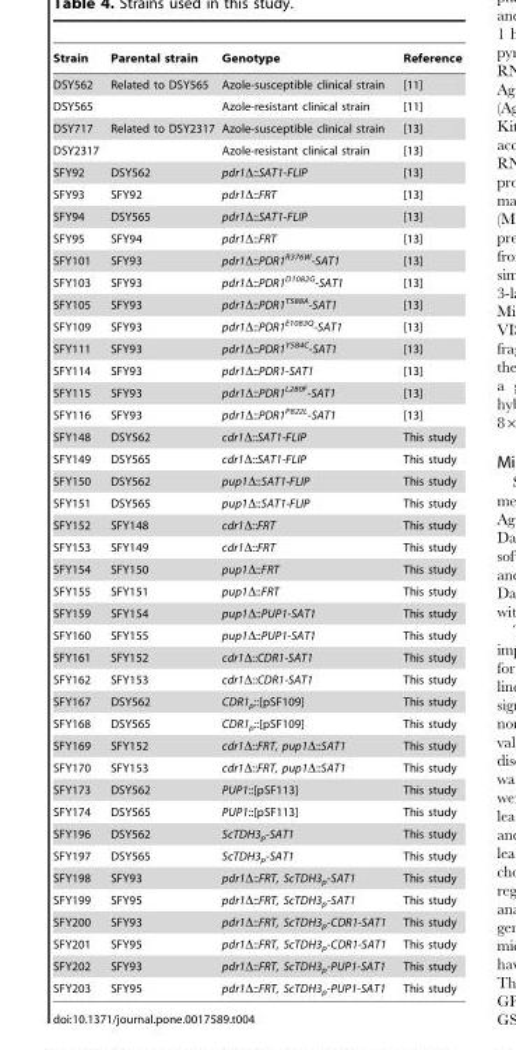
<table><thead><tr><td>Strain</td><td>Parental strain</td><td>Genotype</td><td>Reference</td></tr></thead><tbody><tr><td>DSY562</td><td>Related to DSY565</td><td>Azole-susceptible clinical strain</td><td>[11]</td></tr><tr><td>DSY565</td><td></td><td>Azole-resistant clinical strain</td><td>[11]</td></tr><tr><td>DSY717</td><td>Related to DSY2317</td><td>Azole-susceptible clinical strain</td><td>[13]</td></tr><tr><td>DSY2317</td><td></td><td>Azole-resistant clinical strain</td><td>[13]</td></tr><tr><td>SFY92</td><td>DSY562</td><td>pdr1Δ::SAT1-FLIP</td><td>[13]</td></tr><tr><td>SFY93</td><td>SFY92</td><td>pdr1Δ::FRT</td><td>[13]</td></tr><tr><td>SFY94</td><td>DSY565</td><td>pdr1Δ::SAT1-FLIP</td><td>[13]</td></tr><tr><td>SFY95</td><td>SFY94</td><td>pdr1Δ::FRT</td><td>[13]</td></tr><tr><td>SFY101</td><td>SFY93</td><td>pdr1Δ::PDR1<sup>R376W</sup>-SAT1</td><td>[13]</td></tr><tr><td>SFY103</td><td>SFY93</td><td>pdr1Δ::PDR1<sup>D1082G</sup>-SAT1</td><td>[13]</td></tr><tr><td>SFY105</td><td>SFY93</td><td>pdr1Δ::PDR1<sup>T588A</sup>-SAT1</td><td>[13]</td></tr><tr><td>SFY109</td><td>SFY93</td><td>pdr1Δ::PDR1<sup>E1083Q</sup>-SAT1</td><td>[13]</td></tr><tr><td>SFY111</td><td>SFY93</td><td>pdr1Δ::PDR1<sup>Y584C</sup>-SAT1</td><td>[13]</td></tr><tr><td>SFY114</td><td>SFY93</td><td>pdr1Δ::PDR1-SAT1</td><td>[13]</td></tr><tr><td>SFY115</td><td>SFY93</td><td>pdr1Δ::PDR1<sup>L280F</sup>-SAT1</td><td>[13]</td></tr><tr><td>SFY116</td><td>SFY93</td><td>pdr1Δ::PDR1<sup>P822L</sup>-SAT1</td><td>[13]</td></tr><tr><td>SFY148</td><td>DSY562</td><td>cdr1Δ::SAT1-FLIP</td><td>This study</td></tr><tr><td>SFY149</td><td>DSY565</td><td>cdr1Δ::SAT1-FLIP</td><td>This study</td></tr><tr><td>SFY150</td><td>DSY562</td><td>pup1Δ::SAT1-FLIP</td><td>This study</td></tr><tr><td>SFY151</td><td>DSY565</td><td>pup1Δ::SAT1-FLIP</td><td>This study</td></tr><tr><td>SFY152</td><td>SFY148</td><td>cdr1Δ::FRT</td><td>This study</td></tr><tr><td>SFY153</td><td>SFY149</td><td>cdr1Δ::FRT</td><td>This study</td></tr><tr><td>SFY154</td><td>SFY150</td><td>pup1Δ::FRT</td><td>This study</td></tr><tr><td>SFY155</td><td>SFY151</td><td>pup1Δ::FRT</td><td>This study</td></tr><tr><td>SFY159</td><td>SFY154</td><td>pup1Δ::PUP1-SAT1</td><td>This study</td></tr><tr><td>SFY160</td><td>SFY155</td><td>pup1Δ::PUP1-SAT1</td><td>This study</td></tr><tr><td>SFY161</td><td>SFY152</td><td>cdr1Δ::CDR1-SAT1</td><td>This study</td></tr><tr><td>SFY162</td><td>SFY153</td><td>cdr1Δ::CDR1-SAT1</td><td>This study</td></tr><tr><td>SFY167</td><td>DSY562</td><td>CDR1<sub>p</sub>::[pSF109]</td><td>This study</td></tr><tr><td>SFY168</td><td>DSY565</td><td>CDR1<sub>p</sub>::[pSF109]</td><td>This study</td></tr><tr><td>SFY169</td><td>SFY152</td><td>cdr1Δ::FRT, pup1Δ::SAT1</td><td>This study</td></tr><tr><td>SFY170</td><td>SFY153</td><td>cdr1Δ::FRT, pup1Δ::SAT1</td><td>This study</td></tr><tr><td>SFY173</td><td>DSY562</td><td>PUP1::[pSF113]</td><td>This study</td></tr><tr><td>SFY174</td><td>DSY565</td><td>PUP1::[pSF113]</td><td>This study</td></tr><tr><td>SFY196</td><td>DSY562</td><td>ScTDH3<sub>p</sub>-SAT1</td><td>This study</td></tr><tr><td>SFY197</td><td>DSY565</td><td>ScTDH3<sub>p</sub>-SAT1</td><td>This study</td></tr><tr><td>SFY198</td><td>SFY93</td><td>pdr1Δ::FRT, ScTDH3<sub>p</sub>-SAT1</td><td>This study</td></tr><tr><td>SFY199</td><td>SFY95</td><td>pdr1Δ::FRT, ScTDH3<sub>p</sub>-SAT1</td><td>This study</td></tr><tr><td>SFY200</td><td>SFY93</td><td>pdr1Δ::FRT, ScTDH3<sub>p</sub>-CDR1-SAT1</td><td>This study</td></tr><tr><td>SFY201</td><td>SFY95</td><td>pdr1Δ::FRT, ScTDH3<sub>p</sub>-CDR1-SAT1</td><td>This study</td></tr><tr><td>SFY202</td><td>SFY93</td><td>pdr1Δ::FRT, ScTDH3<sub>p</sub>-PUP1-SAT1</td><td>This study</td></tr><tr><td>SFY203</td><td>SFY95</td><td>pdr1Δ::FRT, ScTDH3<sub>p</sub>-PUP1-SAT1</td><td>This study</td></tr></tbody></table>